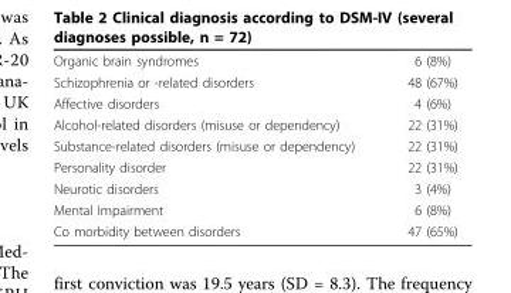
<table><tbody><tr><td>Organic brain syndromes</td><td>6 (8%)</td></tr><tr><td>Schizophrenia or -related disorders</td><td>48 (67%)</td></tr><tr><td>Affective disorders</td><td>4 (6%)</td></tr><tr><td>Alcohol-related disorders (misuse or dependency)</td><td>22 (31%)</td></tr><tr><td>Substance-related disorders (misuse or dependency)</td><td>22 (31%)</td></tr><tr><td>Personality disorder</td><td>22 (31%)</td></tr><tr><td>Neurotic disorders</td><td>3 (4%)</td></tr><tr><td>Mental Impairment</td><td>6 (8%)</td></tr><tr><td>Co morbidity between disorders</td><td>47 (65%)</td></tr></tbody></table>